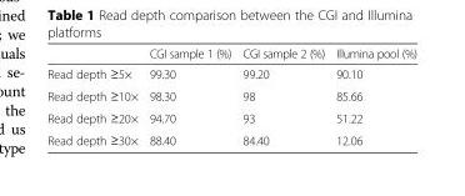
<table><thead><tr><td></td><td>CGI sample 1 (%)</td><td>CGI sample 2 (%)</td><td>Illumina pool (%)</td></tr></thead><tbody><tr><td>Read depth ≥5×</td><td>99.30</td><td>99.20</td><td>90.10</td></tr><tr><td>Read depth ≥10×</td><td>98.30</td><td>98</td><td>85.66</td></tr><tr><td>Read depth ≥20×</td><td>94.70</td><td>93</td><td>51.22</td></tr><tr><td>Read depth ≥30×</td><td>88.40</td><td>84.40</td><td>12.06</td></tr></tbody></table>